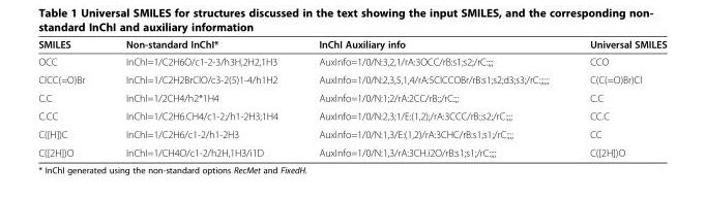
<table><thead><tr><td>SMILES</td><td>Non-standard InChI*</td><td>InChI Auxiliary info</td><td>Universal SMILES</td></tr></thead><tbody><tr><td>OCC</td><td>InChI=1/C2H6O/c1-2-3/h3H,2H2,1H3</td><td>AuxInfo=1/0/N:3,2,1/rA:3OCC/rB:s1;s2;/rC:;;;</td><td>CCO</td></tr><tr><td>ClCC(=O)Br</td><td>InChI=1/C2H2BrClO/c3-2(5)1-4/h1H2</td><td>AuxInfo=1/0/N:2,3,5,1,4/rA:5ClCCOBr/rB:s1;s2;d3;s3;/rC:;;;;;</td><td>C(C(=O)Br)Cl</td></tr><tr><td>C.C</td><td>InChI=1/2CH4/h2*1H4</td><td>AuxInfo=1/0/N:1;2/rA:2CC/rB:;/rC:;;</td><td>C.C</td></tr><tr><td>C.CC</td><td>InChI=1/C2H6.CH4/c1-2;/h1-2H3;1H4</td><td>AuxInfo=1/0/N:2,3;1/E:(1,2);/rA:3CCC/rB:;s2;/rC:;;;</td><td>CC.C</td></tr><tr><td>C([H])C</td><td>InChI=1/C2H6/c1-2/h1-2H3</td><td>AuxInfo=1/0/N:1,3/E:(1,2)/rA:3CHC/rB:s1;s1;/rC:;;;</td><td>CC</td></tr><tr><td>C([2H])O</td><td>InChI=1/CH4O/c1-2/h2H,1H3/i1D</td><td>AuxInfo=1/0/N:1,3/rA:3CH.i2O/rB:s1;s1;/rC:;;;</td><td>C([2H])O</td></tr></tbody></table>